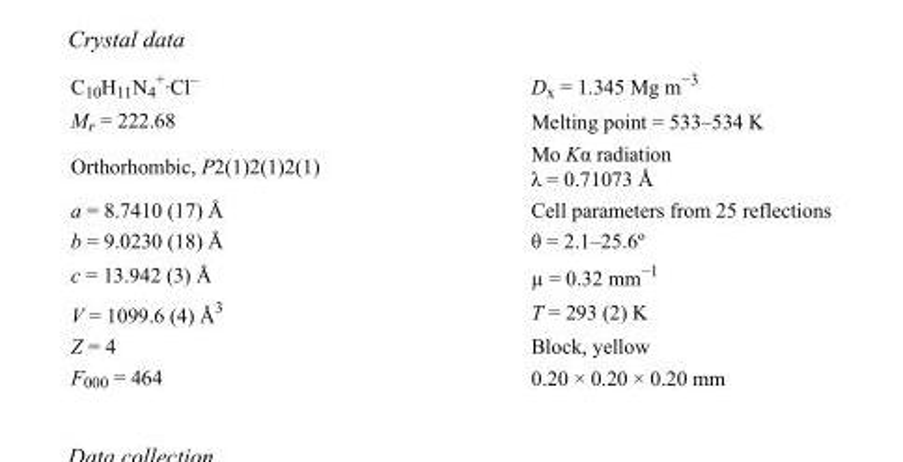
<table><tbody><tr><td>C<sub>10</sub>H<sub>11</sub>N<sub>4</sub> <sup>+</sup>·Cl<sup>–</sup></td><td>D<sub>x</sub> = 1.345 Mg m<sup>−3</sup></td></tr><tr><td>M<sub>r</sub> = 222.68</td><td>Melting point = 533–534 K</td></tr><tr><td>Orthorhombic, P2(1)2(1)2(1)</td><td>Mo Kα radiation λ = 0.71073 Å</td></tr><tr><td>a = 8.7410 (17) Å</td><td>Cell parameters from 25 reflections</td></tr><tr><td>b = 9.0230 (18) Å</td><td>θ = 2.1–25.6º</td></tr><tr><td>c = 13.942 (3) Å</td><td>µ = 0.32 mm<sup>−1</sup></td></tr><tr><td>V = 1099.6 (4) Å<sup>3</sup></td><td>T = 293 (2) K</td></tr><tr><td>Z = 4</td><td>Block, yellow</td></tr><tr><td>F<sub>000</sub> = 464</td><td>0.20 × 0.20 × 0.20 mm</td></tr></tbody></table>